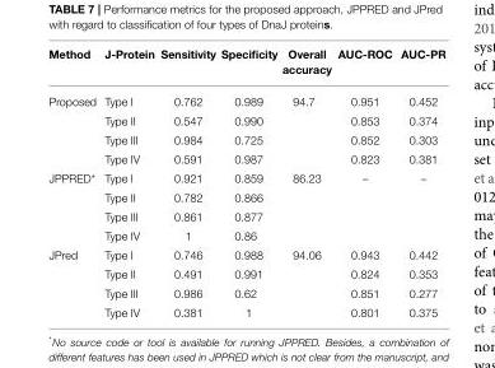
<table><thead><tr><td>Method</td><td>J-Protein</td><td>Sensitivity</td><td>Specificity</td><td>Overall accuracy</td><td>AUC-ROC</td><td>AUC-PR</td></tr></thead><tbody><tr><td rowspan="4">Proposed</td><td>Type I</td><td>0.762</td><td>0.989</td><td>94.7</td><td>0.951</td><td>0.452</td></tr><tr><td>Type II</td><td>0.547</td><td>0.990</td><td></td><td>0.853</td><td>0.374</td></tr><tr><td>Type III</td><td>0.984</td><td>0.725</td><td></td><td>0.852</td><td>0.303</td></tr><tr><td>Type IV</td><td>0.591</td><td>0.987</td><td></td><td>0.823</td><td>0.381</td></tr><tr><td rowspan="4">JPPRED*</td><td>Type I</td><td>0.921</td><td>0.859</td><td>86.23</td><td>–</td><td>–</td></tr><tr><td>Type II</td><td>0.782</td><td>0.866</td><td></td><td></td><td></td></tr><tr><td>Type III</td><td>0.861</td><td>0.877</td><td></td><td></td><td></td></tr><tr><td>Type IV</td><td>1</td><td>0.86</td><td></td><td></td><td></td></tr><tr><td rowspan="4">JPred</td><td>Type I</td><td>0.746</td><td>0.988</td><td>94.06</td><td>0.943</td><td>0.442</td></tr><tr><td>Type II</td><td>0.491</td><td>0.991</td><td></td><td>0.824</td><td>0.353</td></tr><tr><td>Type III</td><td>0.986</td><td>0.62</td><td></td><td>0.851</td><td>0.277</td></tr><tr><td>Type IV</td><td>0.381</td><td>1</td><td></td><td>0.801</td><td>0.375</td></tr></tbody></table>